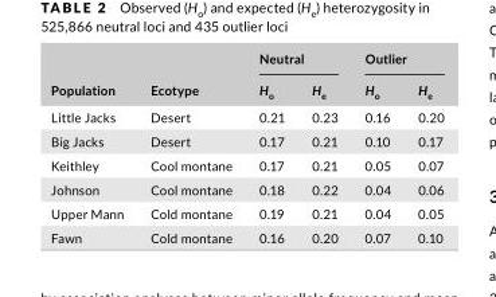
<table><thead><tr><td rowspan="2">Population</td><td rowspan="2">Ecotype</td><td colspan="2">Neutral</td><td colspan="2">Outlier</td></tr><tr><td>H<sub>o</sub></td><td>H<sub>e</sub></td><td>H<sub>o</sub></td><td>H<sub>e</sub></td></tr></thead><tbody><tr><td>Little Jacks</td><td>Desert</td><td>0.21</td><td>0.23</td><td>0.16</td><td>0.20</td></tr><tr><td>Big Jacks</td><td>Desert</td><td>0.17</td><td>0.21</td><td>0.10</td><td>0.17</td></tr><tr><td>Keithley</td><td>Cool montane</td><td>0.17</td><td>0.21</td><td>0.05</td><td>0.07</td></tr><tr><td>Johnson</td><td>Cool montane</td><td>0.18</td><td>0.22</td><td>0.04</td><td>0.06</td></tr><tr><td>Upper Mann</td><td>Cold montane</td><td>0.19</td><td>0.21</td><td>0.04</td><td>0.05</td></tr><tr><td>Fawn</td><td>Cold montane</td><td>0.16</td><td>0.20</td><td>0.07</td><td>0.10</td></tr></tbody></table>